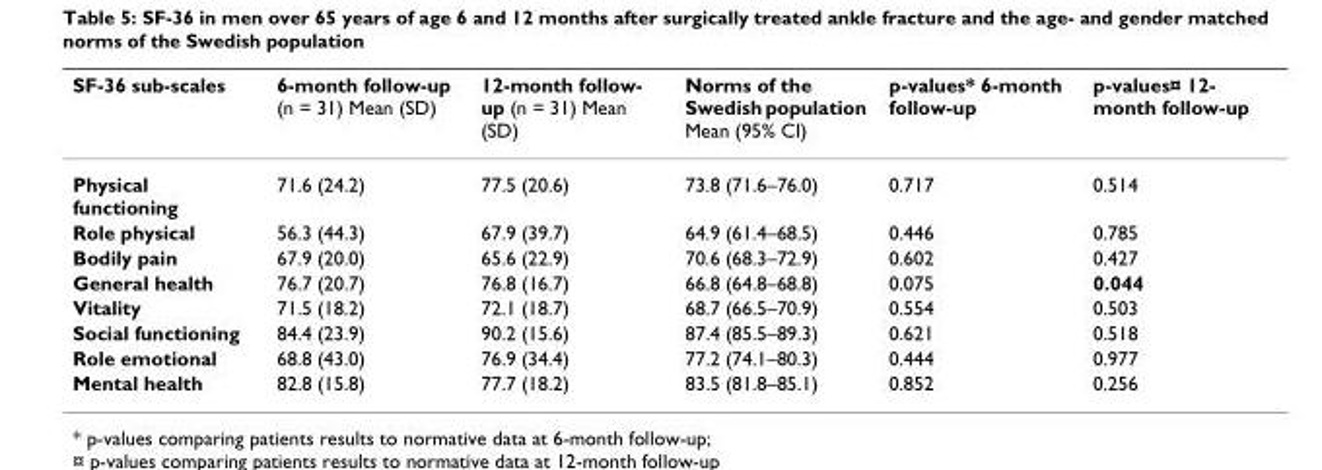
<table><thead><tr><td>SF-36 sub-scales</td><td>6-month follow-up (n = 31) Mean (SD)</td><td>12-month follow- up (n = 31) Mean (SD)</td><td>Norms of the Swedish population Mean (95% CI)</td><td>p-values* 6-month follow-up</td><td>p-values¤ 12- month follow-up</td></tr></thead><tbody><tr><td>Physical functioning</td><td>71.6 (24.2)</td><td>77.5 (20.6)</td><td>73.8 (71.6–76.0)</td><td>0.717</td><td>0.514</td></tr><tr><td>Role physical</td><td>56.3 (44.3)</td><td>67.9 (39.7)</td><td>64.9 (61.4–68.5)</td><td>0.446</td><td>0.785</td></tr><tr><td>Bodily pain</td><td>67.9 (20.0)</td><td>65.6 (22.9)</td><td>70.6 (68.3–72.9)</td><td>0.602</td><td>0.427</td></tr><tr><td>General health</td><td>76.7 (20.7)</td><td>76.8 (16.7)</td><td>66.8 (64.8–68.8)</td><td>0.075</td><td>0.044</td></tr><tr><td>Vitality</td><td>71.5 (18.2)</td><td>72.1 (18.7)</td><td>68.7 (66.5–70.9)</td><td>0.554</td><td>0.503</td></tr><tr><td>Social functioning</td><td>84.4 (23.9)</td><td>90.2 (15.6)</td><td>87.4 (85.5–89.3)</td><td>0.621</td><td>0.518</td></tr><tr><td>Role emotional</td><td>68.8 (43.0)</td><td>76.9 (34.4)</td><td>77.2 (74.1–80.3)</td><td>0.444</td><td>0.977</td></tr><tr><td>Mental health</td><td>82.8 (15.8)</td><td>77.7 (18.2)</td><td>83.5 (81.8–85.1)</td><td>0.852</td><td>0.256</td></tr></tbody></table>